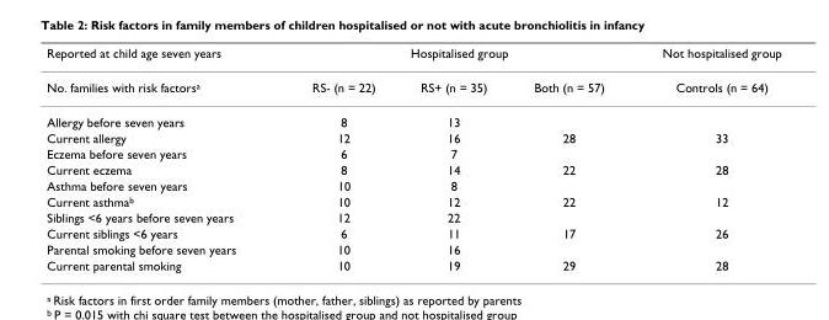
<table><thead><tr><td rowspan="2">Reported at child age seven years No. families with risk factorsa</td><td colspan="3">Hospitalised group</td><td rowspan="2">Not hospitalised group Controls (n = 64)</td></tr><tr><td>RS- (n = 22)</td><td>RS+ (n = 35)</td><td>Both (n = 57)</td></tr></thead><tbody><tr><td>Allergy before seven years</td><td>8</td><td>13</td><td></td><td></td></tr><tr><td>Current allergy</td><td>12</td><td>16</td><td>28</td><td>33</td></tr><tr><td>Eczema before seven years</td><td>6</td><td>7</td><td></td><td></td></tr><tr><td>Current eczema</td><td>8</td><td>14</td><td>22</td><td>28</td></tr><tr><td>Asthma before seven years</td><td>10</td><td>8</td><td></td><td></td></tr><tr><td>Current asthma<sup>b</sup></td><td>10</td><td>12</td><td>22</td><td>12</td></tr><tr><td>Siblings &lt;6 years before seven years</td><td>12</td><td>22</td><td></td><td></td></tr><tr><td>Current siblings &lt;6 years</td><td>6</td><td>11</td><td>17</td><td>26</td></tr><tr><td>Parental smoking before seven years</td><td>10</td><td>16</td><td></td><td></td></tr><tr><td>Current parental smoking</td><td>10</td><td>19</td><td>29</td><td>28</td></tr></tbody></table>